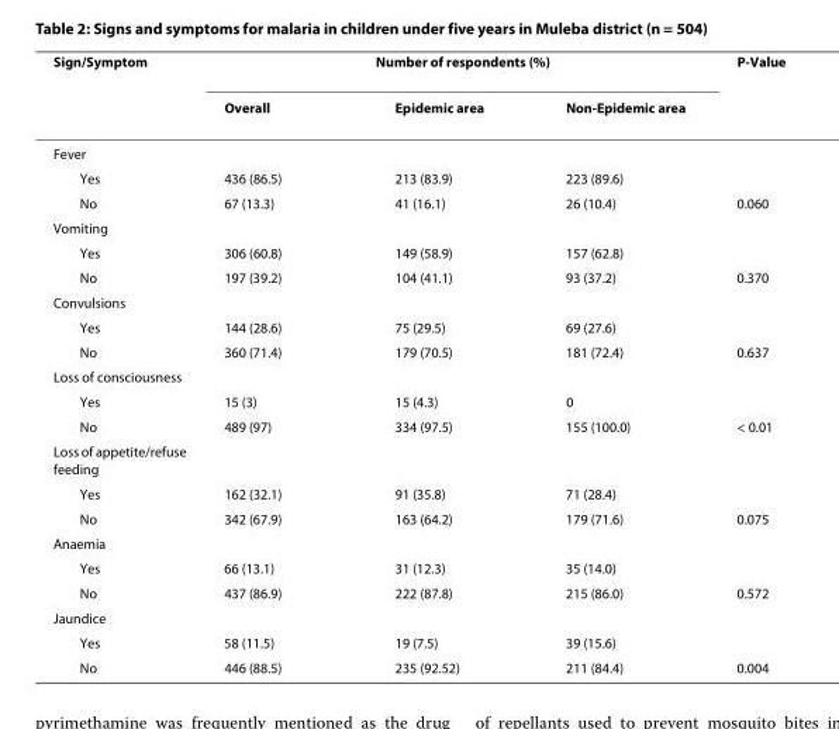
<table><thead><tr><td rowspan="2">Sign/Symptom</td><td colspan="3">Number of respondents (%)</td><td rowspan="2">P-Value</td></tr><tr><td>Overall</td><td>Epidemic area</td><td>Non-Epidemic area</td></tr></thead><tbody><tr><td colspan="5">Fever</td></tr><tr><td>Yes</td><td>436 (86.5)</td><td>213 (83.9)</td><td>223 (89.6)</td><td></td></tr><tr><td>No</td><td>67 (13.3)</td><td>41 (16.1)</td><td>26 (10.4)</td><td>0.060</td></tr><tr><td colspan="5">Vomiting</td></tr><tr><td>Yes</td><td>306 (60.8)</td><td>149 (58.9)</td><td>157 (62.8)</td><td></td></tr><tr><td>No</td><td>197 (39.2)</td><td>104 (41.1)</td><td>93 (37.2)</td><td>0.370</td></tr><tr><td colspan="5">Convulsions</td></tr><tr><td>Yes</td><td>144 (28.6)</td><td>75 (29.5)</td><td>69 (27.6)</td><td></td></tr><tr><td>No</td><td>360 (71.4)</td><td>179 (70.5)</td><td>181 (72.4)</td><td>0.637</td></tr><tr><td colspan="5">Loss of consciousness</td></tr><tr><td>Yes</td><td>15 (3)</td><td>15 (4.3)</td><td>0</td><td></td></tr><tr><td>No</td><td>489 (97)</td><td>334 (97.5)</td><td>155 (100.0)</td><td>&lt; 0.01</td></tr><tr><td colspan="5">Loss of appetite/refuse feeding</td></tr><tr><td>Yes</td><td>162 (32.1)</td><td>91 (35.8)</td><td>71 (28.4)</td><td></td></tr><tr><td>No</td><td>342 (67.9)</td><td>163 (64.2)</td><td>179 (71.6)</td><td>0.075</td></tr><tr><td colspan="5">Anaemia</td></tr><tr><td>Yes</td><td>66 (13.1)</td><td>31 (12.3)</td><td>35 (14.0)</td><td></td></tr><tr><td>No</td><td>437 (86.9)</td><td>222 (87.8)</td><td>215 (86.0)</td><td>0.572</td></tr><tr><td colspan="5">Jaundice</td></tr><tr><td>Yes</td><td>58 (11.5)</td><td>19 (7.5)</td><td>39 (15.6)</td><td></td></tr><tr><td>No</td><td>446 (88.5)</td><td>235 (92.52)</td><td>211 (84.4)</td><td>0.004</td></tr></tbody></table>